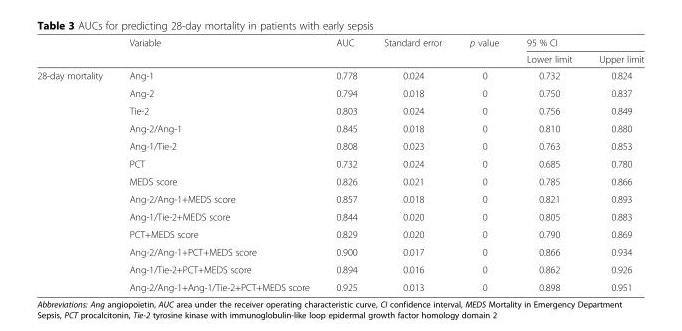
<table><thead><tr><td rowspan="2"></td><td rowspan="2">Variable</td><td rowspan="2">AUC</td><td rowspan="2">Standard error</td><td rowspan="2">p value</td><td colspan="2">95 % CI</td></tr><tr><td>Lower limit</td><td>Upper limit</td></tr></thead><tbody><tr><td rowspan="13">28-day mortality</td><td>Ang-1</td><td>0.778</td><td>0.024</td><td>0</td><td>0.732</td><td>0.824</td></tr><tr><td>Ang-2</td><td>0.794</td><td>0.018</td><td>0</td><td>0.750</td><td>0.837</td></tr><tr><td>Tie-2</td><td>0.803</td><td>0.024</td><td>0</td><td>0.756</td><td>0.849</td></tr><tr><td>Ang-2/Ang-1</td><td>0.845</td><td>0.018</td><td>0</td><td>0.810</td><td>0.880</td></tr><tr><td>Ang-1/Tie-2</td><td>0.808</td><td>0.023</td><td>0</td><td>0.763</td><td>0.853</td></tr><tr><td>PCT</td><td>0.732</td><td>0.024</td><td>0</td><td>0.685</td><td>0.780</td></tr><tr><td>MEDS score</td><td>0.826</td><td>0.021</td><td>0</td><td>0.785</td><td>0.866</td></tr><tr><td>Ang-2/Ang-1+MEDS score</td><td>0.857</td><td>0.018</td><td>0</td><td>0.821</td><td>0.893</td></tr><tr><td>Ang-1/Tie-2+MEDS score</td><td>0.844</td><td>0.020</td><td>0</td><td>0.805</td><td>0.883</td></tr><tr><td>PCT+MEDS score</td><td>0.829</td><td>0.020</td><td>0</td><td>0.790</td><td>0.869</td></tr><tr><td>Ang-2/Ang-1+PCT+MEDS score</td><td>0.900</td><td>0.017</td><td>0</td><td>0.866</td><td>0.934</td></tr><tr><td>Ang-1/Tie-2+PCT+MEDS score</td><td>0.894</td><td>0.016</td><td>0</td><td>0.862</td><td>0.926</td></tr><tr><td>Ang-2/Ang-1+Ang-1/Tie-2+PCT+MEDS score</td><td>0.925</td><td>0.013</td><td>0</td><td>0.898</td><td>0.951</td></tr></tbody></table>